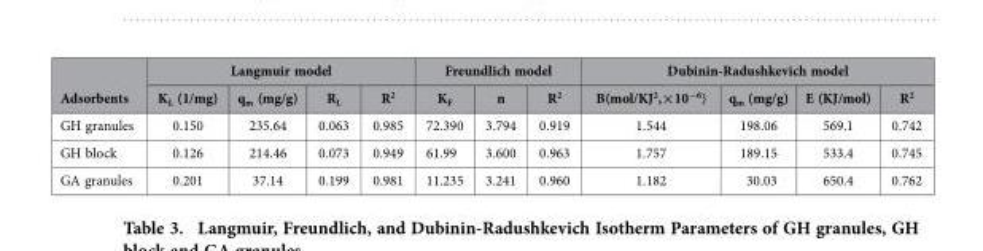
<table><thead><tr><td rowspan="2">Adsorbents</td><td colspan="4">Langmuir model</td><td colspan="3">Freundlich model</td><td colspan="4">Dubinin-Radushkevich model</td></tr><tr><td>K<sub>L</sub> (1/mg)</td><td>q<sub>m</sub> (mg/g)</td><td>R<sub>L</sub></td><td>R<sup>2</sup></td><td>K<sub>F</sub></td><td>n</td><td>R<sup>2</sup></td><td>B(mol/KJ<sup>2</sup>,×10<sup>−6</sup>)</td><td>q<sub>m</sub> (mg/g)</td><td>E (KJ/mol)</td><td>R<sup>2</sup></td></tr></thead><tbody><tr><td>GH granules</td><td>0.150</td><td>235.64</td><td>0.063</td><td>0.985</td><td>72.390</td><td>3.794</td><td>0.919</td><td>1.544</td><td>198.06</td><td>569.1</td><td>0.742</td></tr><tr><td>GH block</td><td>0.126</td><td>214.46</td><td>0.073</td><td>0.949</td><td>61.99</td><td>3.600</td><td>0.963</td><td>1.757</td><td>189.15</td><td>533.4</td><td>0.745</td></tr><tr><td>GA granules</td><td>0.201</td><td>37.14</td><td>0.199</td><td>0.981</td><td>11.235</td><td>3.241</td><td>0.960</td><td>1.182</td><td>30.03</td><td>650.4</td><td>0.762</td></tr></tbody></table>